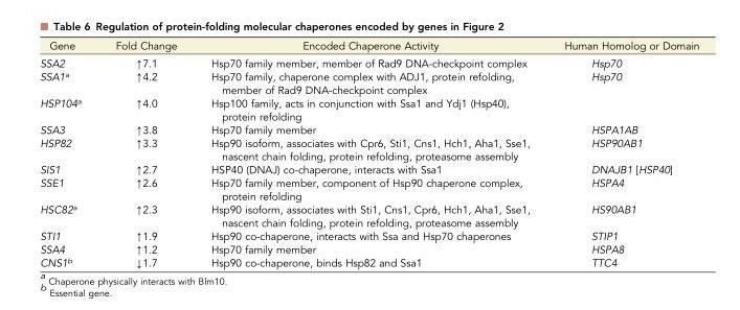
<table><thead><tr><td>Gene</td><td>Fold Change</td><td>Encoded Chaperone Activity</td><td>Human Homolog or Domain</td></tr></thead><tbody><tr><td>SSA2</td><td>↑7.1</td><td>Hsp70 family member, member of Rad9 DNA-checkpoint complex</td><td>Hsp70</td></tr><tr><td>SSA1<sup>a</sup></td><td>↑4.2</td><td>Hsp70 family, chaperone complex with ADJ1, protein refolding, member of Rad9 DNA-checkpoint complex</td><td>Hsp70</td></tr><tr><td>HSP104<sup>a</sup></td><td>↑4.0</td><td>Hsp100 family, acts in conjunction with Ssa1 and Ydj1 (Hsp40), protein refolding</td><td></td></tr><tr><td>SSA3</td><td>↑3.8</td><td>Hsp70 family member</td><td>HSPA1AB</td></tr><tr><td>HSP82</td><td>↑3.3</td><td>Hsp90 isoform, associates with Cpr6, Sti1, Cns1, Hch1, Aha1, Sse1, nascent chain folding, protein refolding, proteasome assembly</td><td>HSP90AB1</td></tr><tr><td>SIS1</td><td>↑2.7</td><td>HSP40 (DNAJ) co-chaperone, interacts with Ssa1</td><td>DNAJB1 [HSP40]</td></tr><tr><td>SSE1</td><td>↑2.6</td><td>Hsp70 family member, component of Hsp90 chaperone complex, protein refolding</td><td>HSPA4</td></tr><tr><td>HSC82<sup>a</sup></td><td>↑2.3</td><td>Hsp90 isoform, associates with Sti1, Cns1, Cpr6, Hch1, Aha1, Sse1, nascent chain folding, protein refolding, proteasome assembly</td><td>HS90AB1</td></tr><tr><td>STI1</td><td>↑1.9</td><td>Hsp90 co-chaperone, interacts with Ssa and Hsp70 chaperones</td><td>STIP1</td></tr><tr><td>SSA4</td><td>↑1.2</td><td>Hsp70 family member</td><td>HSPA8</td></tr><tr><td>CNS1<sup>b</sup></td><td>↓1.7</td><td>Hsp90 co-chaperone, binds Hsp82 and Ssa1</td><td>TTC4</td></tr></tbody></table>